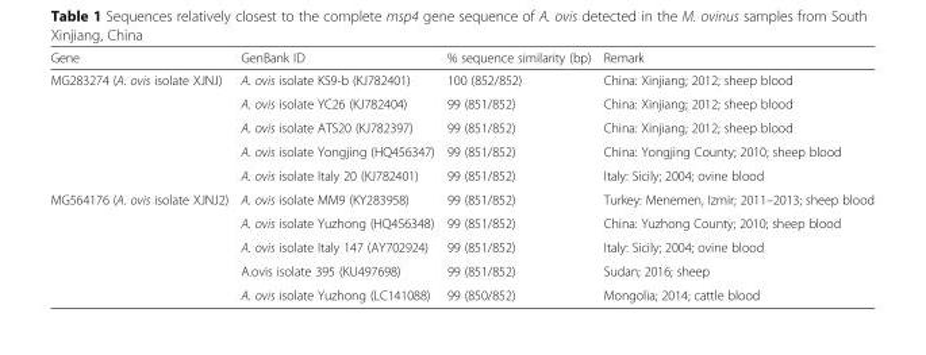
<table><thead><tr><td>Gene</td><td>GenBank ID</td><td>% sequence similarity (bp)</td><td>Remark</td></tr></thead><tbody><tr><td rowspan="5">MG283274 (A. ovis isolate XJNJ)</td><td>A. ovis isolate KS9-b (KJ782401)</td><td>100 (852/852)</td><td>China: Xinjiang; 2012; sheep blood</td></tr><tr><td>A. ovis isolate YC26 (KJ782404)</td><td>99 (851/852)</td><td>China: Xinjiang; 2012; sheep blood</td></tr><tr><td>A. ovis isolate ATS20 (KJ782397)</td><td>99 (851/852)</td><td>China: Xinjiang; 2012; sheep blood</td></tr><tr><td>A. ovis isolate Yongjing (HQ456347)</td><td>99 (851/852)</td><td>China: Yongjing County; 2010; sheep blood</td></tr><tr><td>A. ovis isolate Italy 20 (KJ782401)</td><td>99 (851/852)</td><td>Italy: Sicily; 2004; ovine blood</td></tr><tr><td rowspan="5">MG564176 (A. ovis isolate XJNJ2)</td><td>A. ovis isolate MM9 (KY283958)</td><td>99 (851/852)</td><td>Turkey: Menemen, Izmir; 2011–2013; sheep blood</td></tr><tr><td>A. ovis isolate Yuzhong (HQ456348)</td><td>99 (851/852)</td><td>China: Yuzhong County; 2010; sheep blood</td></tr><tr><td>A. ovis isolate Italy 147 (AY702924)</td><td>99 (851/852)</td><td>Italy: Sicily; 2004; ovine blood</td></tr><tr><td>A.ovis isolate 395 (KU497698)</td><td>99 (851/852)</td><td>Sudan; 2016; sheep</td></tr><tr><td>A. ovis isolate Yuzhong (LC141088)</td><td>99 (850/852)</td><td>Mongolia; 2014; cattle blood</td></tr></tbody></table>